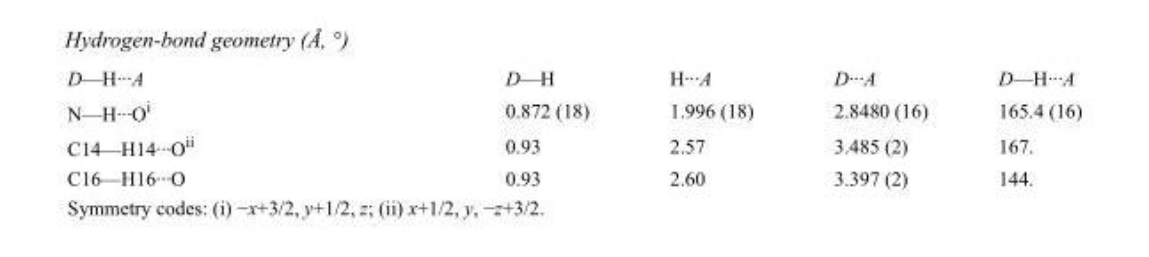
<table><tbody><tr><td>D—H···A</td><td>D—H</td><td>H···A</td><td>D···A</td><td>D—H···A</td></tr><tr><td>N—H···O<sup>i</sup></td><td>0.872 (18)</td><td>1.996 (18)</td><td>2.8480 (16)</td><td>165.4 (16)</td></tr><tr><td>C14—H14···O<sup>ii</sup></td><td>0.93</td><td>2.57</td><td>3.485 (2)</td><td>167.</td></tr><tr><td>C16—H16···O</td><td>0.93</td><td>2.60</td><td>3.397 (2)</td><td>144.</td></tr></tbody></table>